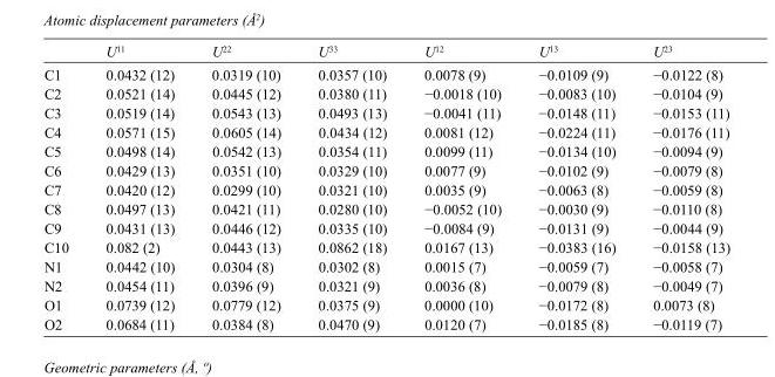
<table><thead><tr><td></td><td>U<sup>11</sup></td><td>U<sup>22</sup></td><td>U<sup>33</sup></td><td>U<sup>12</sup></td><td>U<sup>13</sup></td><td>U<sup>23</sup></td></tr></thead><tbody><tr><td>C1</td><td>0.0432 (12)</td><td>0.0319 (10)</td><td>0.0357 (10)</td><td>0.0078 (9)</td><td>−0.0109 (9)</td><td>−0.0122 (8)</td></tr><tr><td>C2</td><td>0.0521 (14)</td><td>0.0445 (12)</td><td>0.0380 (11)</td><td>−0.0018 (10)</td><td>−0.0083 (10)</td><td>−0.0104 (9)</td></tr><tr><td>C3</td><td>0.0519 (14)</td><td>0.0543 (13)</td><td>0.0493 (13)</td><td>−0.0041 (11)</td><td>−0.0148 (11)</td><td>−0.0153 (11)</td></tr><tr><td>C4</td><td>0.0571 (15)</td><td>0.0605 (14)</td><td>0.0434 (12)</td><td>0.0081 (12)</td><td>−0.0224 (11)</td><td>−0.0176 (11)</td></tr><tr><td>C5</td><td>0.0498 (14)</td><td>0.0542 (13)</td><td>0.0354 (11)</td><td>0.0099 (11)</td><td>−0.0134 (10)</td><td>−0.0094 (9)</td></tr><tr><td>C6</td><td>0.0429 (13)</td><td>0.0351 (10)</td><td>0.0329 (10)</td><td>0.0077 (9)</td><td>−0.0102 (9)</td><td>−0.0079 (8)</td></tr><tr><td>C7</td><td>0.0420 (12)</td><td>0.0299 (10)</td><td>0.0321 (10)</td><td>0.0035 (9)</td><td>−0.0063 (8)</td><td>−0.0059 (8)</td></tr><tr><td>C8</td><td>0.0497 (13)</td><td>0.0421 (11)</td><td>0.0280 (10)</td><td>−0.0052 (10)</td><td>−0.0030 (9)</td><td>−0.0110 (8)</td></tr><tr><td>C9</td><td>0.0431 (13)</td><td>0.0446 (12)</td><td>0.0335 (10)</td><td>−0.0084 (9)</td><td>−0.0131 (9)</td><td>−0.0044 (9)</td></tr><tr><td>C10</td><td>0.082 (2)</td><td>0.0443 (13)</td><td>0.0862 (18)</td><td>0.0167 (13)</td><td>−0.0383 (16)</td><td>−0.0158 (13)</td></tr><tr><td>N1</td><td>0.0442 (10)</td><td>0.0304 (8)</td><td>0.0302 (8)</td><td>0.0015 (7)</td><td>−0.0059 (7)</td><td>−0.0058 (7)</td></tr><tr><td>N2</td><td>0.0454 (11)</td><td>0.0396 (9)</td><td>0.0321 (9)</td><td>0.0036 (8)</td><td>−0.0079 (8)</td><td>−0.0049 (7)</td></tr><tr><td>O1</td><td>0.0739 (12)</td><td>0.0779 (12)</td><td>0.0375 (9)</td><td>0.0000 (10)</td><td>−0.0172 (8)</td><td>0.0073 (8)</td></tr><tr><td>O2</td><td>0.0684 (11)</td><td>0.0384 (8)</td><td>0.0470 (9)</td><td>0.0120 (7)</td><td>−0.0185 (8)</td><td>−0.0119 (7)</td></tr></tbody></table>